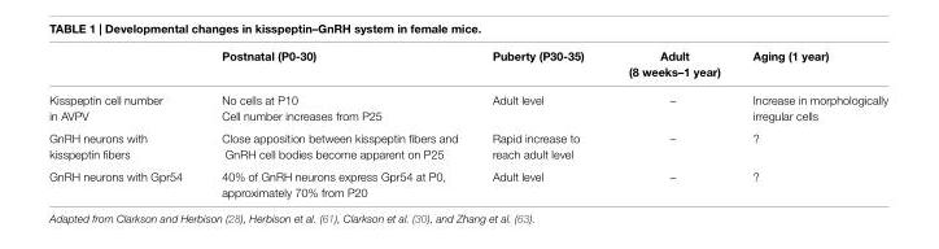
<table><thead><tr><td></td><td>Postnatal (P0-30)</td><td>Puberty (P30-35)</td><td>Adult (8 weeks–1 year)</td><td>Aging (1 year)</td></tr></thead><tbody><tr><td>Kisspeptin cell number in AVPV</td><td>No cells at P10 Cell number increases from P25</td><td>Adult level</td><td>–</td><td>Increase in morphologically irregular cells</td></tr><tr><td>GnRH neurons with kisspeptin fibers</td><td>Close apposition between kisspeptin fibers and GnRH cell bodies become apparent on P25</td><td>Rapid increase to reach adult level</td><td>–</td><td>?</td></tr><tr><td>GnRH neurons with Gpr54</td><td>40% of GnRH neurons express Gpr54 at P0, approximately 70% from P20</td><td>Adult level</td><td>–</td><td>?</td></tr></tbody></table>